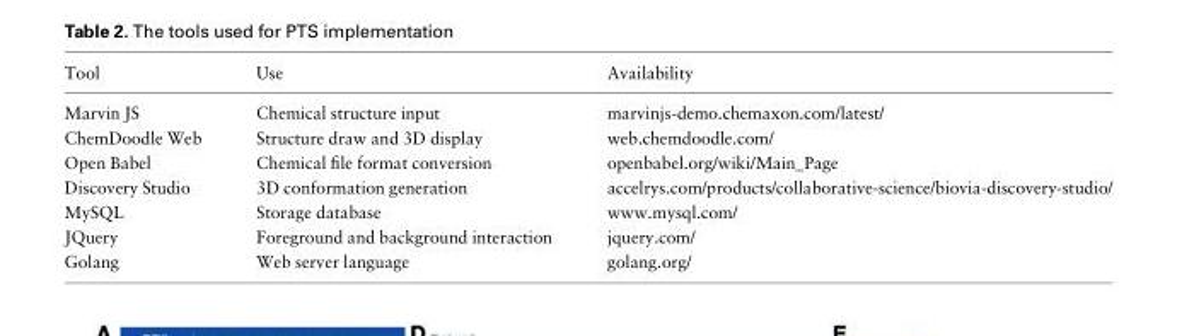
<table><thead><tr><td>Tool</td><td>Use</td><td>Availability</td></tr></thead><tbody><tr><td>Marvin JS</td><td>Chemical structure input</td><td>marvinjs-demo.chemaxon.com/latest/</td></tr><tr><td>ChemDoodle Web</td><td>Structure draw and 3D display</td><td>web.chemdoodle.com/</td></tr><tr><td>Open Babel</td><td>Chemical file format conversion</td><td>openbabel.org/wiki/Main_Page</td></tr><tr><td>Discovery Studio</td><td>3D conformation generation</td><td>accelrys.com/products/collaborative-science/biovia-discovery-studio/</td></tr><tr><td>MySQL</td><td>Storage database</td><td>www.mysql.com/</td></tr><tr><td>JQuery</td><td>Foreground and background interaction</td><td>jquery.com/</td></tr><tr><td>Golang</td><td>Web server language</td><td>golang.org/</td></tr></tbody></table>